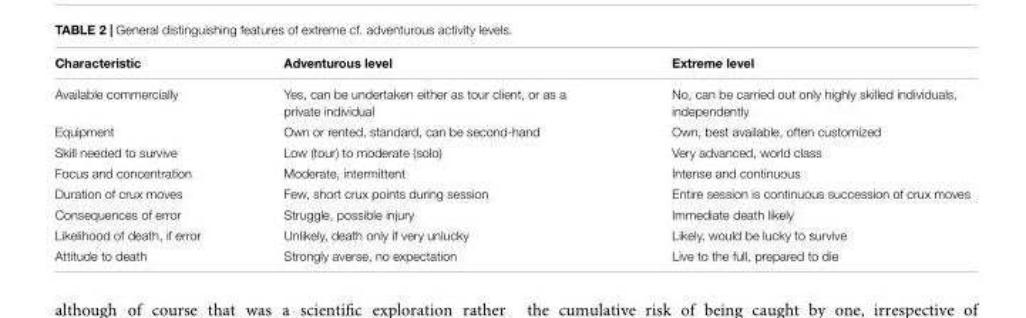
<table><thead><tr><td>Characteristic</td><td>Adventurous level</td><td>Extreme level</td></tr></thead><tbody><tr><td>Available commercially</td><td>Yes, can be undertaken either as tour client, or as a private individual</td><td>No, can be carried out only highly skilled individuals, independently</td></tr><tr><td>Equipment</td><td>Own or rented, standard, can be second-hand</td><td>Own, best available, often customized</td></tr><tr><td>Skill needed to survive</td><td>Low (tour) to moderate (solo)</td><td>Very advanced, world class</td></tr><tr><td>Focus and concentration</td><td>Moderate, intermittent</td><td>Intense and continuous</td></tr><tr><td>Duration of crux moves</td><td>Few, short crux points during session</td><td>Entire session is continuous succession of crux moves</td></tr><tr><td>Consequences of error</td><td>Struggle, possible injury</td><td>Immediate death likely</td></tr><tr><td>Likelihood of death, if error</td><td>Unlikely, death only if very unlucky</td><td>Likely, would be lucky to survive</td></tr><tr><td>Attitude to death</td><td>Strongly averse, no expectation</td><td>Live to the full, prepared to die</td></tr></tbody></table>